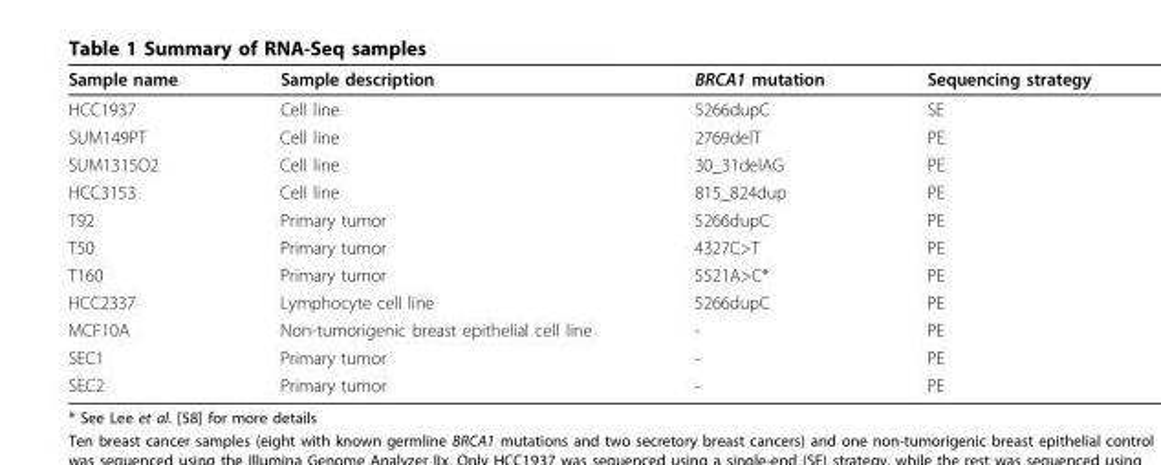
<table><thead><tr><td>Sample name</td><td>Sample description</td><td>BRCA1 mutation</td><td>Sequencing strategy</td></tr></thead><tbody><tr><td>HCC1937</td><td>Cell line</td><td>5266dupC</td><td>SE</td></tr><tr><td>SUM149PT</td><td>Cell line</td><td>2769delT</td><td>PE</td></tr><tr><td>SUM1315O2</td><td>Cell line</td><td>30_31delAG</td><td>PE</td></tr><tr><td>HCC3153</td><td>Cell line</td><td>815_824dup</td><td>PE</td></tr><tr><td>T92</td><td>Primary tumor</td><td>5266dupC</td><td>PE</td></tr><tr><td>T50</td><td>Primary tumor</td><td>4327C&gt;T</td><td>PE</td></tr><tr><td>T160</td><td>Primary tumor</td><td>5521A&gt;C*</td><td>PE</td></tr><tr><td>HCC2337</td><td>Lymphocyte cell line</td><td>5266dupC</td><td>PE</td></tr><tr><td>MCF10A</td><td>Non-tumorigenic breast epithelial cell line</td><td>-</td><td>PE</td></tr><tr><td>SEC1</td><td>Primary tumor</td><td>-</td><td>PE</td></tr><tr><td>SEC2</td><td>Primary tumor</td><td>-</td><td>PE</td></tr></tbody></table>